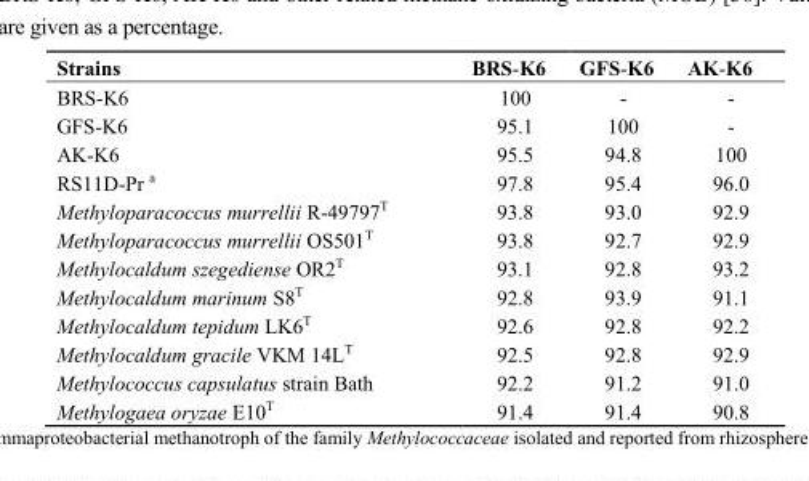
<table><thead><tr><td>Strains</td><td>BRS-K6</td><td>GFS-K6</td><td>AK-K6</td></tr></thead><tbody><tr><td>BRS-K6</td><td>100</td><td>-</td><td>-</td></tr><tr><td>GFS-K6</td><td>95.1</td><td>100</td><td>-</td></tr><tr><td>AK-K6</td><td>95.5</td><td>94.8</td><td>100</td></tr><tr><td>RS11D-Pr <sup>a</sup></td><td>97.8</td><td>95.4</td><td>96.0</td></tr><tr><td>Methyloparacoccus murrellii R-49797<sup>T</sup></td><td>93.8</td><td>93.0</td><td>92.9</td></tr><tr><td>Methyloparacoccus murrellii OS501<sup>T</sup></td><td>93.8</td><td>92.7</td><td>92.9</td></tr><tr><td>Methylocaldum szegediense OR2<sup>T</sup></td><td>93.1</td><td>92.8</td><td>93.2</td></tr><tr><td>Methylocaldum marinum S8<sup>T</sup></td><td>92.8</td><td>93.9</td><td>91.1</td></tr><tr><td>Methylocaldum tepidum LK6<sup>T</sup></td><td>92.6</td><td>92.8</td><td>92.2</td></tr><tr><td>Methylocaldum gracile VKM 14L<sup>T</sup></td><td>92.5</td><td>92.8</td><td>92.9</td></tr><tr><td>Methylococcus capsulatus strain Bath</td><td>92.2</td><td>91.2</td><td>91.0</td></tr><tr><td>Methylogaea oryzae E10<sup>T</sup></td><td>91.4</td><td>91.4</td><td>90.8</td></tr></tbody></table>